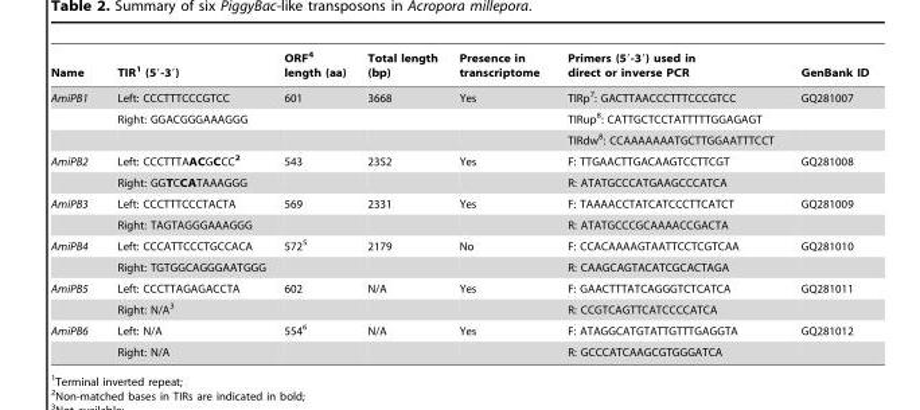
<table><thead><tr><td>Name</td><td>TIR<sup>1</sup> (5′-3′)</td><td>ORF<sup>4</sup> length (aa)</td><td>Total length (bp)</td><td>Presence in transcriptome</td><td>Primers (5′-3′) used in direct or inverse PCR</td><td>GenBank ID</td></tr></thead><tbody><tr><td rowspan="3">AmiPB1</td><td>Left: CCCTTTCCCGTCC</td><td>601</td><td>3668</td><td>Yes</td><td>TIRp<sup>7</sup>: GACTTAACCCTTTCCCGTCC</td><td>GQ281007</td></tr><tr><td>Right: GGACGGGAAAGGG</td><td></td><td></td><td></td><td>TIRup<sup>8</sup>: CATTGCTCCTATTTTTGGAGAGT</td><td></td></tr><tr><td></td><td></td><td></td><td></td><td>TIRdw<sup>8</sup>: CCAAAAAAATGCTTGGAATTTCCT</td><td></td></tr><tr><td rowspan="2">AmiPB2</td><td>Left: CCCTTTAACGCCC2</td><td>543</td><td>2352</td><td>Yes</td><td>F: TTGAACTTGACAAGTCCTTCGT</td><td>GQ281008</td></tr><tr><td>Right: GGTCCATAAAGGG</td><td></td><td></td><td></td><td>R: ATATGCCCATGAAGCCCATCA</td><td></td></tr><tr><td rowspan="2">AmiPB3</td><td>Left: CCCTTTCCCTACTA</td><td>569</td><td>2331</td><td>Yes</td><td>F: TAAAACCTATCATCCCTTCATCT</td><td>GQ281009</td></tr><tr><td>Right: TAGTAGGGAAAGGG</td><td></td><td></td><td></td><td>R: ATATGCCCGCAAAACCGACTA</td><td></td></tr><tr><td rowspan="2">AmiPB4</td><td>Left: CCCATTCCCTGCCACA</td><td>572<sup>5</sup></td><td>2179</td><td>No</td><td>F: CCACAAAAGTAATTCCTCGTCAA</td><td>GQ281010</td></tr><tr><td>Right: TGTGGCAGGGAATGGG</td><td></td><td></td><td></td><td>R: CAAGCAGTACATCGCACTAGA</td><td></td></tr><tr><td rowspan="2">AmiPB5</td><td>Left: CCCTTAGAGACCTA</td><td>602</td><td>N/A</td><td>Yes</td><td>F: GAACTTTATCAGGGTCTCATCA</td><td>GQ281011</td></tr><tr><td>Right: N/A<sup>3</sup></td><td></td><td></td><td></td><td>R: CCGTCAGTTCATCCCCATCA</td><td></td></tr><tr><td rowspan="2">AmiPB6</td><td>Left: N/A</td><td>554<sup>6</sup></td><td>N/A</td><td>Yes</td><td>F: ATAGGCATGTATTGTTTGAGGTA</td><td>GQ281012</td></tr><tr><td>Right: N/A</td><td></td><td></td><td></td><td>R: GCCCATCAAGCGTGGGATCA</td><td></td></tr></tbody></table>